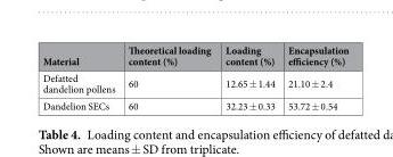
<table><thead><tr><td>Material</td><td>Theoretical loading content (%)</td><td>Loading content (%)</td><td>Encapsulation efficiency (%)</td></tr></thead><tbody><tr><td>Defatted dandelion pollens</td><td>60</td><td>12.65 ± 1.44</td><td>21.10 ± 2.4</td></tr><tr><td>Dandelion SECs</td><td>60</td><td>32.23 ± 0.33</td><td>53.72 ± 0.54</td></tr></tbody></table>